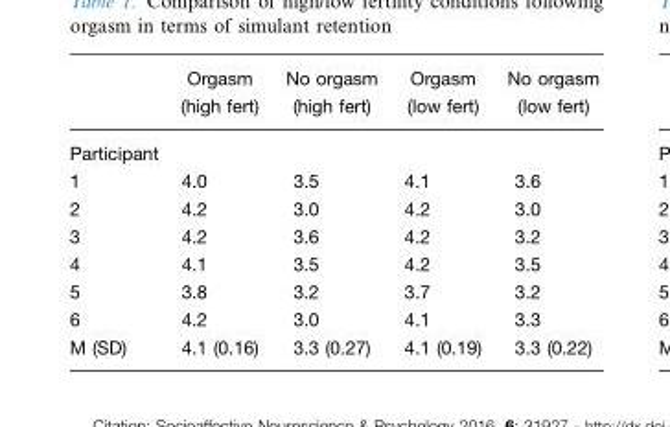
<table><thead><tr><td></td><td>Orgasm (high fert)</td><td>No orgasm (high fert)</td><td>Orgasm (low fert)</td><td>No orgasm (low fert)</td></tr></thead><tbody><tr><td colspan="5">Participant</td></tr><tr><td>1</td><td>4.0</td><td>3.5</td><td>4.1</td><td>3.6</td></tr><tr><td>2</td><td>4.2</td><td>3.0</td><td>4.2</td><td>3.0</td></tr><tr><td>3</td><td>4.2</td><td>3.6</td><td>4.2</td><td>3.2</td></tr><tr><td>4</td><td>4.1</td><td>3.5</td><td>4.2</td><td>3.5</td></tr><tr><td>5</td><td>3.8</td><td>3.2</td><td>3.7</td><td>3.2</td></tr><tr><td>6</td><td>4.2</td><td>3.0</td><td>4.1</td><td>3.3</td></tr><tr><td>M (SD)</td><td>4.1 (0.16)</td><td>3.3 (0.27)</td><td>4.1 (0.19)</td><td>3.3 (0.22)</td></tr></tbody></table>